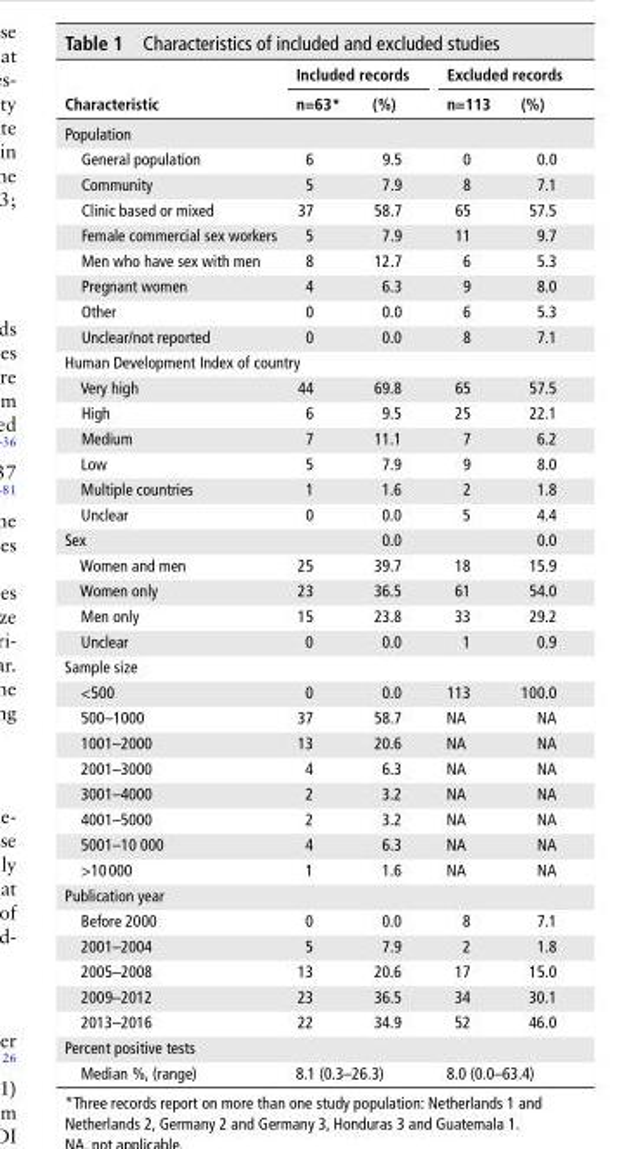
<table><thead><tr><td rowspan="2">Characteristic</td><td colspan="2">Included records</td><td colspan="2">Excluded records</td></tr><tr><td>n=63*</td><td>(%)</td><td>n=113</td><td>(%)</td></tr></thead><tbody><tr><td colspan="5">Population</td></tr><tr><td>General population</td><td>6</td><td>9.5</td><td>0</td><td>0.0</td></tr><tr><td>Community</td><td>5</td><td>7.9</td><td>8</td><td>7.1</td></tr><tr><td>Clinic based or mixed</td><td>37</td><td>58.7</td><td>65</td><td>57.5</td></tr><tr><td>Female commercial sex workers</td><td>5</td><td>7.9</td><td>11</td><td>9.7</td></tr><tr><td>Men who have sex with men</td><td>8</td><td>12.7</td><td>6</td><td>5.3</td></tr><tr><td>Pregnant women</td><td>4</td><td>6.3</td><td>9</td><td>8.0</td></tr><tr><td>Other</td><td>0</td><td>0.0</td><td>6</td><td>5.3</td></tr><tr><td>Unclear/not reported</td><td>0</td><td>0.0</td><td>8</td><td>7.1</td></tr><tr><td colspan="5">Human Development Index of country</td></tr><tr><td>Very high</td><td>44</td><td>69.8</td><td>65</td><td>57.5</td></tr><tr><td>High</td><td>6</td><td>9.5</td><td>25</td><td>22.1</td></tr><tr><td>Medium</td><td>7</td><td>11.1</td><td>7</td><td>6.2</td></tr><tr><td>Low</td><td>5</td><td>7.9</td><td>9</td><td>8.0</td></tr><tr><td>Multiple countries</td><td>1</td><td>1.6</td><td>2</td><td>1.8</td></tr><tr><td>Unclear</td><td>0</td><td>0.0</td><td>5</td><td>4.4</td></tr><tr><td>Sex</td><td></td><td>0.0</td><td></td><td>0.0</td></tr><tr><td>Women and men</td><td>25</td><td>39.7</td><td>18</td><td>15.9</td></tr><tr><td>Women only</td><td>23</td><td>36.5</td><td>61</td><td>54.0</td></tr><tr><td>Men only</td><td>15</td><td>23.8</td><td>33</td><td>29.2</td></tr><tr><td>Unclear</td><td>0</td><td>0.0</td><td>1</td><td>0.9</td></tr><tr><td colspan="5">Sample size</td></tr><tr><td>&lt;500</td><td>0</td><td>0.0</td><td>113</td><td>100.0</td></tr><tr><td>500–1000</td><td>37</td><td>58.7</td><td>NA</td><td>NA</td></tr><tr><td>1001–2000</td><td>13</td><td>20.6</td><td>NA</td><td>NA</td></tr><tr><td>2001–3000</td><td>4</td><td>6.3</td><td>NA</td><td>NA</td></tr><tr><td>3001–4000</td><td>2</td><td>3.2</td><td>NA</td><td>NA</td></tr><tr><td>4001–5000</td><td>2</td><td>3.2</td><td>NA</td><td>NA</td></tr><tr><td>5001–10 000</td><td>4</td><td>6.3</td><td>NA</td><td>NA</td></tr><tr><td>&gt;10 000</td><td>1</td><td>1.6</td><td>NA</td><td>NA</td></tr><tr><td colspan="5">Publication year</td></tr><tr><td>Before 2000</td><td>0</td><td>0.0</td><td>8</td><td>7.1</td></tr><tr><td>2001–2004</td><td>5</td><td>7.9</td><td>2</td><td>1.8</td></tr><tr><td>2005–2008</td><td>13</td><td>20.6</td><td>17</td><td>15.0</td></tr><tr><td>2009–2012</td><td>23</td><td>36.5</td><td>34</td><td>30.1</td></tr><tr><td>2013–2016</td><td>22</td><td>34.9</td><td>52</td><td>46.0</td></tr><tr><td colspan="5">Percent positive tests</td></tr><tr><td>Median %, (range)</td><td colspan="2">8.1 (0.3–26.3)</td><td colspan="2">8.0 (0.0–63.4)</td></tr></tbody></table>